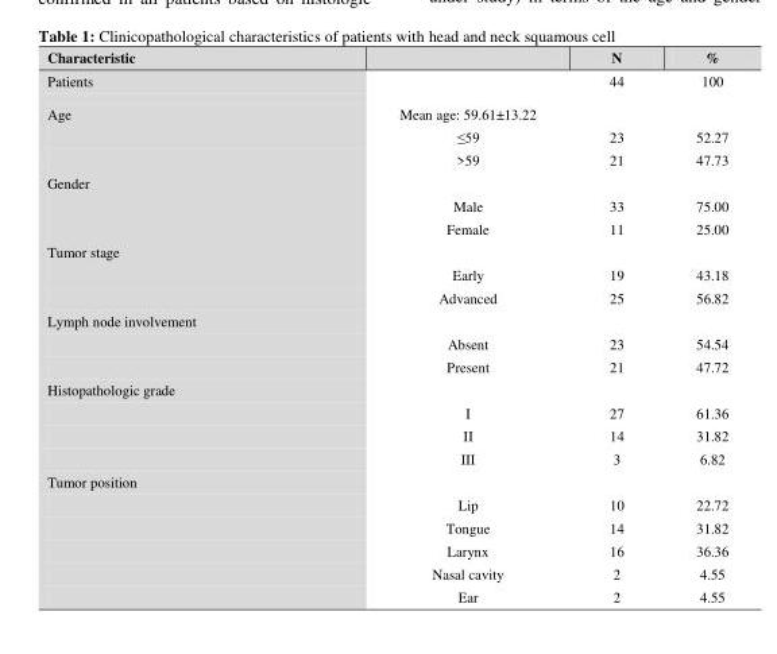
<table><thead><tr><td>Characteristic</td><td></td><td>N</td><td>%</td></tr></thead><tbody><tr><td>Patients</td><td></td><td>44</td><td>100</td></tr><tr><td rowspan="3">Age</td><td>Mean age: 59.61±13.22</td><td></td><td></td></tr><tr><td>≤59</td><td>23</td><td>52.27</td></tr><tr><td>&gt;59</td><td>21</td><td>47.73</td></tr><tr><td colspan="4">Gender</td></tr><tr><td></td><td>Male</td><td>33</td><td>75.00</td></tr><tr><td></td><td>Female</td><td>11</td><td>25.00</td></tr><tr><td colspan="4">Tumor stage</td></tr><tr><td></td><td>Early</td><td>19</td><td>43.18</td></tr><tr><td></td><td>Advanced</td><td>25</td><td>56.82</td></tr><tr><td colspan="4">Lymph node involvement</td></tr><tr><td></td><td>Absent</td><td>23</td><td>54.54</td></tr><tr><td></td><td>Present</td><td>21</td><td>47.72</td></tr><tr><td colspan="4">Histopathologic grade</td></tr><tr><td></td><td>I</td><td>27</td><td>61.36</td></tr><tr><td></td><td>II</td><td>14</td><td>31.82</td></tr><tr><td></td><td>III</td><td>3</td><td>6.82</td></tr><tr><td colspan="4">Tumor position</td></tr><tr><td></td><td>Lip</td><td>10</td><td>22.72</td></tr><tr><td></td><td>Tongue</td><td>14</td><td>31.82</td></tr><tr><td></td><td>Larynx</td><td>16</td><td>36.36</td></tr><tr><td></td><td>Nasal cavity</td><td>2</td><td>4.55</td></tr><tr><td></td><td>Ear</td><td>2</td><td>4.55</td></tr></tbody></table>